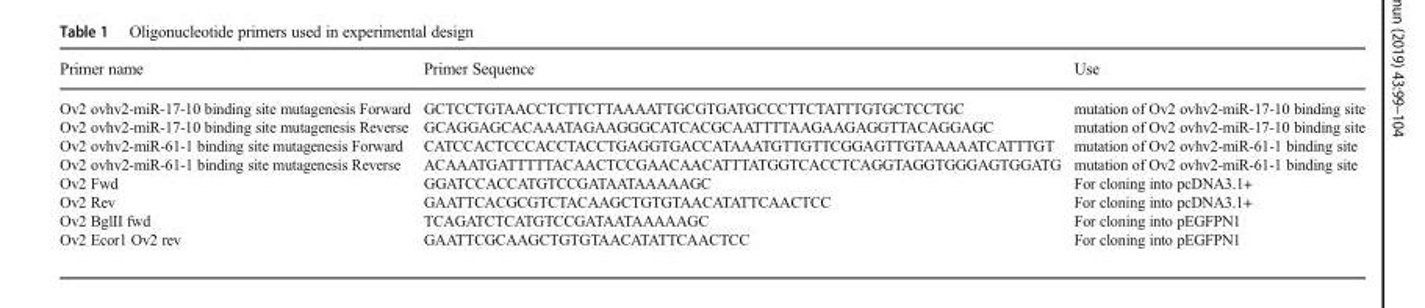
<table><thead><tr><td>Primer name</td><td>Primer Sequence</td><td>Use</td></tr></thead><tbody><tr><td>Ov2 ovhv2-miR-17-10 binding site mutagenesis Forward</td><td>GCTCCTGTAACCTCTTCTTAAAATTGCGTGATGCCCTTCTATTTGTGCTCCTGC</td><td>mutation of Ov2 ovhv2-miR-17-10 binding site</td></tr><tr><td>Ov2 ovhv2-miR-17-10 binding site mutagenesis Reverse</td><td>GCAGGAGCACAAATAGAAGGGCATCACGCAATTTTAAGAAGAGGTTACAGGAGC</td><td>mutation of Ov2 ovhv2-miR-17-10 binding site</td></tr><tr><td>Ov2 ovhv2-miR-61-1 binding site mutagenesis Forward</td><td>CATCCACTCCCACCTACCTGAGGTGACCATAAATGTTGTTCGGAGTTGTAAAAATCATTTGT</td><td>mutation of Ov2 ovhv2-miR-61-1 binding site</td></tr><tr><td>Ov2 ovhv2-miR-61-1 binding site mutagenesis Reverse</td><td>ACAAATGATTTTTACAACTCCGAACAACATTTATGGTCACCTCAGGTAGGTGGGAGTGGATG</td><td>mutation of Ov2 ovhv2-miR-61-1 binding site</td></tr><tr><td>Ov2 Fwd</td><td>GGATCCACCATGTCCGATAATAAAAAGC</td><td>For cloning into pcDNA3.1+</td></tr><tr><td>Ov2 Rev</td><td>GAATTCACGCGTCTACAAGCTGTGTAACATATTCAACTCC</td><td>For cloning into pcDNA3.1+</td></tr><tr><td>Ov2 BglII fwd</td><td>TCAGATCTCATGTCCGATAATAAAAAGC</td><td>For cloning into pEGFPN1</td></tr><tr><td>Ov2 Ecor1 Ov2 rev</td><td>GAATTCGCAAGCTGTGTAACATATTCAACTCC</td><td>For cloning into pEGFPN1</td></tr></tbody></table>